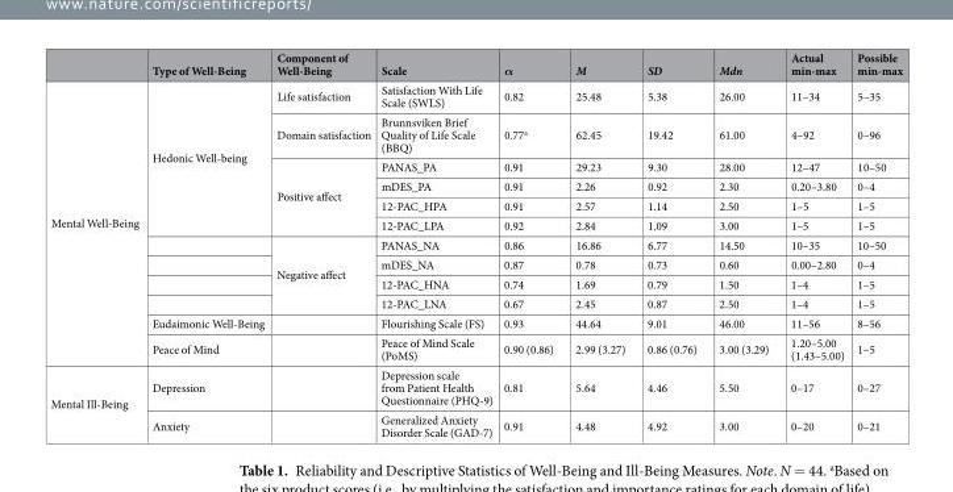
<table><thead><tr><td></td><td>Type of Well-Being</td><td>Component of Well-Being</td><td>Scale</td><td>α</td><td>M</td><td>SD</td><td>Mdn</td><td>Actual min-max</td><td>Possible min-max</td></tr></thead><tbody><tr><td rowspan="12">Mental Well-Being</td><td rowspan="6">Hedonic Well-being</td><td>Life satisfaction</td><td>Satisfaction With Life Scale (SWLS)</td><td>0.82</td><td>25.48</td><td>5.38</td><td>26.00</td><td>11–34</td><td>5–35</td></tr><tr><td>Domain satisfaction</td><td>Brunnsviken Brief Quality of Life Scale (BBQ)</td><td>0.77<sup>a</sup></td><td>62.45</td><td>19.42</td><td>61.00</td><td>4–92</td><td>0–96</td></tr><tr><td rowspan="4">Positive affect</td><td>PANAS_PA</td><td>0.91</td><td>29.23</td><td>9.30</td><td>28.00</td><td>12–47</td><td>10–50</td></tr><tr><td>mDES_PA</td><td>0.91</td><td>2.26</td><td>0.92</td><td>2.30</td><td>0.20–3.80</td><td>0–4</td></tr><tr><td>12-PAC_HPA</td><td>0.91</td><td>2.57</td><td>1.14</td><td>2.50</td><td>1–5</td><td>1–5</td></tr><tr><td>12-PAC_LPA</td><td>0.92</td><td>2.84</td><td>1.09</td><td>3.00</td><td>1–5</td><td>1–5</td></tr><tr><td></td><td rowspan="4">Negative affect</td><td>PANAS_NA</td><td>0.86</td><td>16.86</td><td>6.77</td><td>14.50</td><td>10–35</td><td>10–50</td></tr><tr><td></td><td>mDES_NA</td><td>0.87</td><td>0.78</td><td>0.73</td><td>0.60</td><td>0.00–2.80</td><td>0–4</td></tr><tr><td></td><td>12-PAC_HNA</td><td>0.74</td><td>1.69</td><td>0.79</td><td>1.50</td><td>1–4</td><td>1–5</td></tr><tr><td></td><td>12-PAC_LNA</td><td>0.67</td><td>2.45</td><td>0.87</td><td>2.50</td><td>1–4</td><td>1–5</td></tr><tr><td>Eudaimonic Well-Being</td><td></td><td>Flourishing Scale (FS)</td><td>0.93</td><td>44.64</td><td>9.01</td><td>46.00</td><td>11–56</td><td>8–56</td></tr><tr><td>Peace of Mind</td><td></td><td>Peace of Mind Scale (PoMS)</td><td>0.90 (0.86)</td><td>2.99 (3.27)</td><td>0.86 (0.76)</td><td>3.00 (3.29)</td><td>1.20–5.00 (1.43–5.00)</td><td>1–5</td></tr><tr><td rowspan="2">Mental Ill-Being</td><td>Depression</td><td></td><td>Depression scale from Patient Health Questionnaire (PHQ-9)</td><td>0.81</td><td>5.64</td><td>4.46</td><td>5.50</td><td>0–17</td><td>0–27</td></tr><tr><td>Anxiety</td><td></td><td>Generalized Anxiety Disorder Scale (GAD-7)</td><td>0.91</td><td>4.48</td><td>4.92</td><td>3.00</td><td>0–20</td><td>0–21</td></tr></tbody></table>